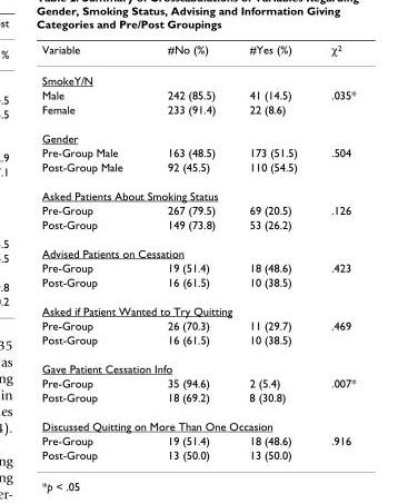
<table><thead><tr><td>Variable</td><td>#No (%)</td><td>#Yes (%)</td><td>χ<sup>2</sup></td></tr></thead><tbody><tr><td colspan="4">SmokeY/N</td></tr><tr><td>Male</td><td>242 (85.5)</td><td>41 (14.5)</td><td>.035*</td></tr><tr><td>Female</td><td>233 (91.4)</td><td>22 (8.6)</td><td></td></tr><tr><td colspan="4">Gender</td></tr><tr><td>Pre-Group Male</td><td>163 (48.5)</td><td>173 (51.5)</td><td>.504</td></tr><tr><td>Post-Group Male</td><td>92 (45.5)</td><td>110 (54.5)</td><td></td></tr><tr><td colspan="4">Asked Patients About Smoking Status</td></tr><tr><td>Pre-Group</td><td>267 (79.5)</td><td>69 (20.5)</td><td>.126</td></tr><tr><td>Post-Group</td><td>149 (73.8)</td><td>53 (26.2)</td><td></td></tr><tr><td colspan="4">Advised Patients on Cessation</td></tr><tr><td>Pre-Group</td><td>19 (51.4)</td><td>18 (48.6)</td><td>.423</td></tr><tr><td>Post-Group</td><td>16 (61.5)</td><td>10 (38.5)</td><td></td></tr><tr><td colspan="4">Asked if Patient Wanted to Try Quitting</td></tr><tr><td>Pre-Group</td><td>26 (70.3)</td><td>11 (29.7)</td><td>.469</td></tr><tr><td>Post-Group</td><td>16 (61.5)</td><td>10 (38.5)</td><td></td></tr><tr><td colspan="4">Gave Patient Cessation Info</td></tr><tr><td>Pre-Group</td><td>35 (94.6)</td><td>2 (5.4)</td><td>.007*</td></tr><tr><td>Post-Group</td><td>18 (69.2)</td><td>8 (30.8)</td><td></td></tr><tr><td colspan="4">Discussed Quitting on More Than One Occasion</td></tr><tr><td>Pre-Group</td><td>19 (51.4)</td><td>18 (48.6)</td><td>.916</td></tr><tr><td>Post-Group</td><td>13 (50.0)</td><td>13 (50.0)</td><td></td></tr></tbody></table>